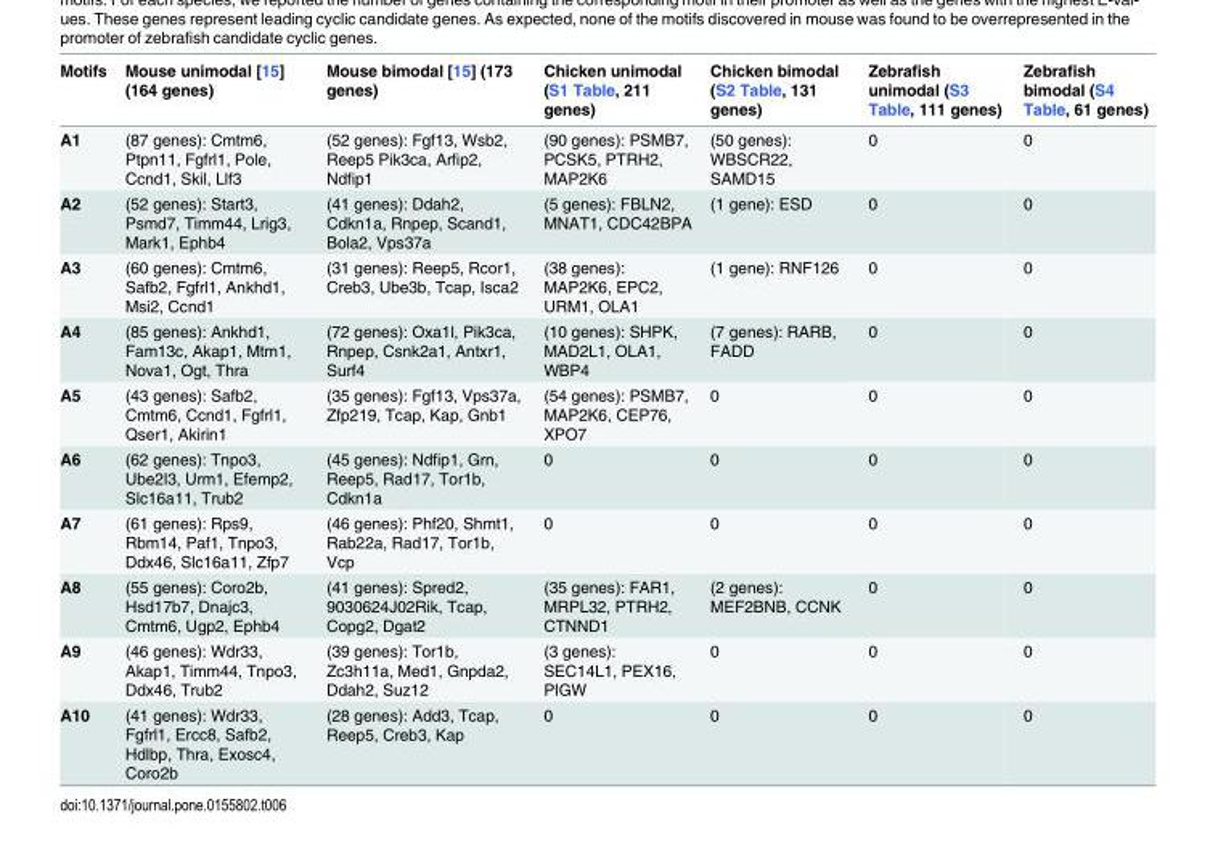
<table><thead><tr><td>Motifs</td><td>Mouse unimodal [15] (164 genes)</td><td>Mouse bimodal [15] (173 genes)</td><td>Chicken unimodal (S1 Table, 211 genes)</td><td>Chicken bimodal (S2 Table, 131 genes)</td><td>Zebrafish unimodal (S3 Table, 111 genes)</td><td>Zebrafish bimodal (S4 Table, 61 genes)</td></tr></thead><tbody><tr><td>A1</td><td>(87 genes): Cmtm6, Ptpn11, Fgfrl1, Pole, Ccnd1, Skil, Llf3</td><td>(52 genes): Fgf13, Wsb2, Reep5 Pik3ca, Arfip2, Ndfip1</td><td>(90 genes): PSMB7, PCSK5, PTRH2, MAP2K6</td><td>(50 genes): WBSCR22, SAMD15</td><td>0</td><td>0</td></tr><tr><td>A2</td><td>(52 genes): Start3, Psmd7, Timm44, Lrig3, Mark1, Ephb4</td><td>(41 genes): Ddah2, Cdkn1a, Rnpep, Scand1, Bola2, Vps37a</td><td>(5 genes): FBLN2, MNAT1, CDC42BPA</td><td>(1 gene): ESD</td><td>0</td><td>0</td></tr><tr><td>A3</td><td>(60 genes): Cmtm6, Safb2, Fgfrl1, Ankhd1, Msi2, Ccnd1</td><td>(31 genes): Reep5, Rcor1, Creb3, Ube3b, Tcap, Isca2</td><td>(38 genes): MAP2K6, EPC2, URM1, OLA1</td><td>(1 gene): RNF126</td><td>0</td><td>0</td></tr><tr><td>A4</td><td>(85 genes): Ankhd1, Fam13c, Akap1, Mtm1, Nova1, Ogt, Thra</td><td>(72 genes): Oxa1l, Pik3ca, Rnpep, Csnk2a1, Antxr1, Surf4</td><td>(10 genes): SHPK, MAD2L1, OLA1, WBP4</td><td>(7 genes): RARB, FADD</td><td>0</td><td>0</td></tr><tr><td>A5</td><td>(43 genes): Safb2, Cmtm6, Ccnd1, Fgfrl1, Qser1, Akirin1</td><td>(35 genes): Fgf13, Vps37a, Zfp219, Tcap, Kap, Gnb1</td><td>(54 genes): PSMB7, MAP2K6, CEP76, XPO7</td><td>0</td><td>0</td><td>0</td></tr><tr><td>A6</td><td>(62 genes): Tnpo3, Ube2l3, Urm1, Efemp2, Slc16a11, Trub2</td><td>(45 genes): Ndfip1, Grn, Reep5, Rad17, Tor1b, Cdkn1a</td><td>0</td><td>0</td><td>0</td><td>0</td></tr><tr><td>A7</td><td>(61 genes): Rps9, Rbm14, Paf1, Tnpo3, Ddx46, Slc16a11, Zfp7</td><td>(46 genes): Phf20, Shmt1, Rab22a, Rad17, Tor1b, Vcp</td><td>0</td><td>0</td><td>0</td><td>0</td></tr><tr><td>A8</td><td>(55 genes): Coro2b, Hsd17b7, Dnajc3, Cmtm6, Ugp2, Ephb4</td><td>(41 genes): Spred2, 9030624J02Rik, Tcap, Copg2, Dgat2</td><td>(35 genes): FAR1, MRPL32, PTRH2, CTNND1</td><td>(2 genes): MEF2BNB, CCNK</td><td>0</td><td>0</td></tr><tr><td>A9</td><td>(46 genes): Wdr33, Akap1, Timm44, Tnpo3, Ddx46, Trub2</td><td>(39 genes): Tor1b, Zc3h11a, Med1, Gnpda2, Ddah2, Suz12</td><td>(3 genes): SEC14L1, PEX16, PIGW</td><td>0</td><td>0</td><td>0</td></tr><tr><td>A10</td><td>(41 genes): Wdr33, Fgfrl1, Ercc8, Safb2, Hdlbp, Thra, Exosc4, Coro2b</td><td>(28 genes): Add3, Tcap, Reep5, Creb3, Kap</td><td>0</td><td>0</td><td>0</td><td>0</td></tr></tbody></table>